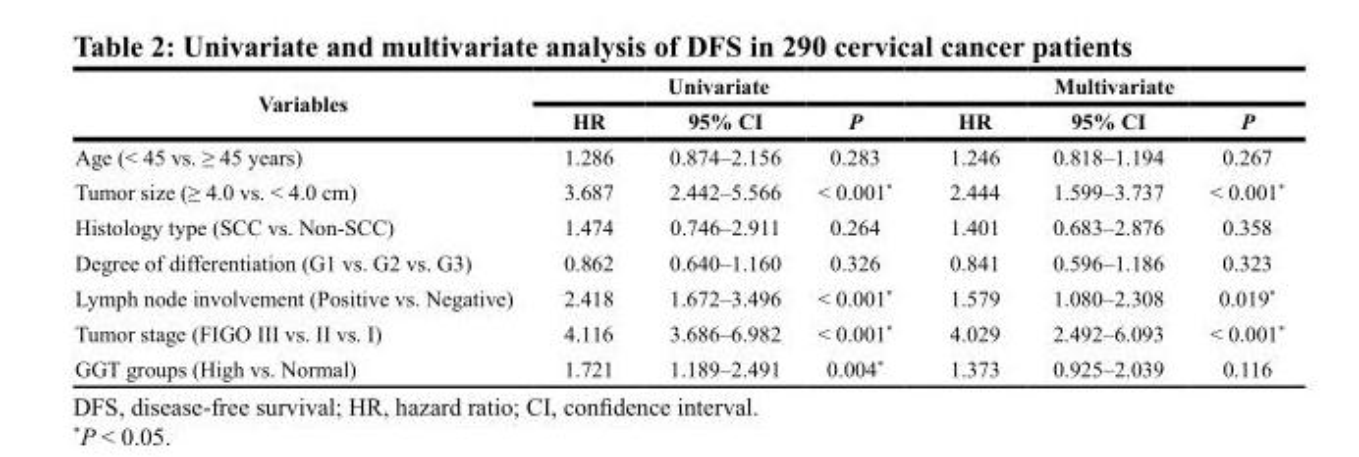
<table><thead><tr><td rowspan="2">Variables</td><td colspan="3">Univariate</td><td colspan="3">Multivariate</td></tr><tr><td>HR</td><td>95% CI</td><td>P</td><td>HR</td><td>95% CI</td><td>P</td></tr></thead><tbody><tr><td>Age (&lt; 45 vs. ≥ 45 years)</td><td>1.286</td><td>0.874–2.156</td><td>0.283</td><td>1.246</td><td>0.818–1.194</td><td>0.267</td></tr><tr><td>Tumor size (≥ 4.0 vs. &lt; 4.0 cm)</td><td>3.687</td><td>2.442–5.566</td><td>&lt; 0.001*</td><td>2.444</td><td>1.599–3.737</td><td>&lt; 0.001*</td></tr><tr><td>Histology type (SCC vs. Non-SCC)</td><td>1.474</td><td>0.746–2.911</td><td>0.264</td><td>1.401</td><td>0.683–2.876</td><td>0.358</td></tr><tr><td>Degree of differentiation (G1 vs. G2 vs. G3)</td><td>0.862</td><td>0.640–1.160</td><td>0.326</td><td>0.841</td><td>0.596–1.186</td><td>0.323</td></tr><tr><td>Lymph node involvement (Positive vs. Negative)</td><td>2.418</td><td>1.672–3.496</td><td>&lt; 0.001*</td><td>1.579</td><td>1.080–2.308</td><td>0.019*</td></tr><tr><td>Tumor stage (FIGO III vs. II vs. I)</td><td>4.116</td><td>3.686–6.982</td><td>&lt; 0.001*</td><td>4.029</td><td>2.492–6.093</td><td>&lt; 0.001*</td></tr><tr><td>GGT groups (High vs. Normal)</td><td>1.721</td><td>1.189–2.491</td><td>0.004*</td><td>1.373</td><td>0.925–2.039</td><td>0.116</td></tr></tbody></table>